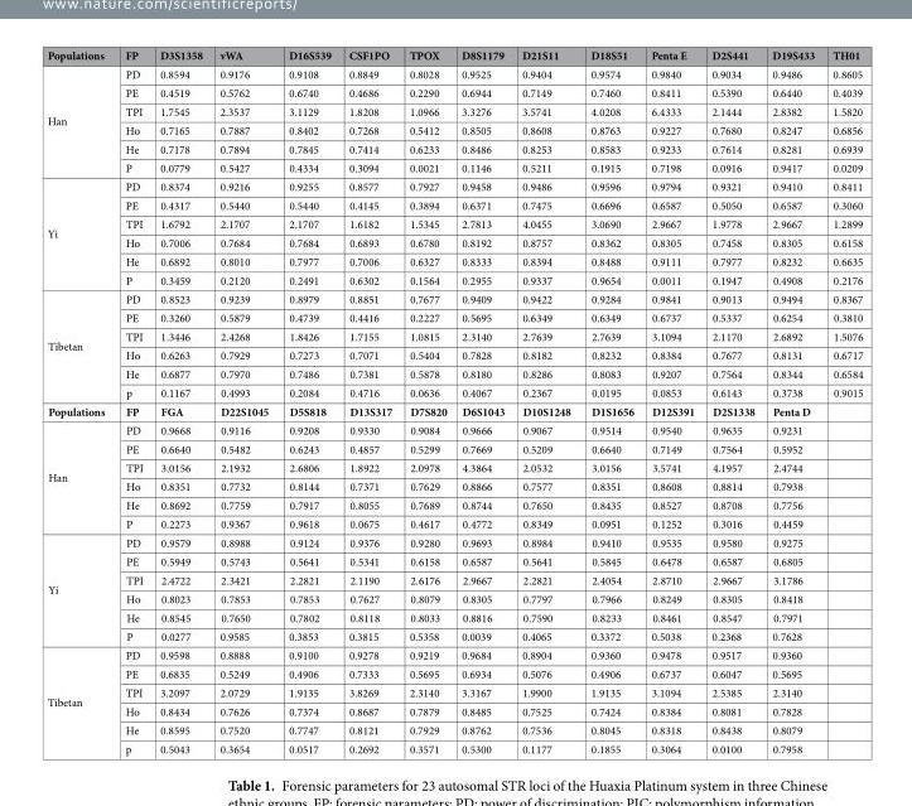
<table><thead><tr><td>Populations</td><td>FP</td><td>D3S1358</td><td>vWA</td><td>D16S539</td><td>CSF1PO</td><td>TPOX</td><td>D8S1179</td><td>D21S11</td><td>D18S51</td><td>Penta E</td><td>D2S441</td><td>D19S433</td><td>TH01</td></tr></thead><tbody><tr><td rowspan="6">Han</td><td>PD</td><td>0.8594</td><td>0.9176</td><td>0.9108</td><td>0.8849</td><td>0.8028</td><td>0.9525</td><td>0.9404</td><td>0.9574</td><td>0.9840</td><td>0.9034</td><td>0.9486</td><td>0.8605</td></tr><tr><td>PE</td><td>0.4519</td><td>0.5762</td><td>0.6740</td><td>0.4686</td><td>0.2290</td><td>0.6944</td><td>0.7149</td><td>0.7460</td><td>0.8411</td><td>0.5390</td><td>0.6440</td><td>0.4039</td></tr><tr><td>TPI</td><td>1.7545</td><td>2.3537</td><td>3.1129</td><td>1.8208</td><td>1.0966</td><td>3.3276</td><td>3.5741</td><td>4.0208</td><td>6.4333</td><td>2.1444</td><td>2.8382</td><td>1.5820</td></tr><tr><td>Ho</td><td>0.7165</td><td>0.7887</td><td>0.8402</td><td>0.7268</td><td>0.5412</td><td>0.8505</td><td>0.8608</td><td>0.8763</td><td>0.9227</td><td>0.7680</td><td>0.8247</td><td>0.6856</td></tr><tr><td>He</td><td>0.7178</td><td>0.7894</td><td>0.7845</td><td>0.7414</td><td>0.6233</td><td>0.8486</td><td>0.8253</td><td>0.8583</td><td>0.9233</td><td>0.7614</td><td>0.8281</td><td>0.6939</td></tr><tr><td>P</td><td>0.0779</td><td>0.5427</td><td>0.4334</td><td>0.3094</td><td>0.0021</td><td>0.1146</td><td>0.5211</td><td>0.1915</td><td>0.7198</td><td>0.0916</td><td>0.9417</td><td>0.0209</td></tr><tr><td rowspan="6">Yi</td><td>PD</td><td>0.8374</td><td>0.9216</td><td>0.9255</td><td>0.8577</td><td>0.7927</td><td>0.9458</td><td>0.9486</td><td>0.9596</td><td>0.9794</td><td>0.9321</td><td>0.9410</td><td>0.8411</td></tr><tr><td>PE</td><td>0.4317</td><td>0.5440</td><td>0.5440</td><td>0.4145</td><td>0.3894</td><td>0.6371</td><td>0.7475</td><td>0.6696</td><td>0.6587</td><td>0.5050</td><td>0.6587</td><td>0.3060</td></tr><tr><td>TPI</td><td>1.6792</td><td>2.1707</td><td>2.1707</td><td>1.6182</td><td>1.5345</td><td>2.7813</td><td>4.0455</td><td>3.0690</td><td>2.9667</td><td>1.9778</td><td>2.9667</td><td>1.2899</td></tr><tr><td>Ho</td><td>0.7006</td><td>0.7684</td><td>0.7684</td><td>0.6893</td><td>0.6780</td><td>0.8192</td><td>0.8757</td><td>0.8362</td><td>0.8305</td><td>0.7458</td><td>0.8305</td><td>0.6158</td></tr><tr><td>He</td><td>0.6892</td><td>0.8010</td><td>0.7977</td><td>0.7006</td><td>0.6327</td><td>0.8333</td><td>0.8394</td><td>0.8488</td><td>0.9111</td><td>0.7977</td><td>0.8232</td><td>0.6635</td></tr><tr><td>P</td><td>0.3459</td><td>0.2120</td><td>0.2491</td><td>0.6302</td><td>0.1564</td><td>0.2955</td><td>0.9337</td><td>0.9654</td><td>0.0011</td><td>0.1947</td><td>0.4908</td><td>0.2176</td></tr><tr><td rowspan="6">Tibetan</td><td>PD</td><td>0.8523</td><td>0.9239</td><td>0.8979</td><td>0.8851</td><td>0.7677</td><td>0.9409</td><td>0.9422</td><td>0.9284</td><td>0.9841</td><td>0.9013</td><td>0.9494</td><td>0.8367</td></tr><tr><td>PE</td><td>0.3260</td><td>0.5879</td><td>0.4739</td><td>0.4416</td><td>0.2227</td><td>0.5695</td><td>0.6349</td><td>0.6349</td><td>0.6737</td><td>0.5337</td><td>0.6254</td><td>0.3810</td></tr><tr><td>TPI</td><td>1.3446</td><td>2.4268</td><td>1.8426</td><td>1.7155</td><td>1.0815</td><td>2.3140</td><td>2.7639</td><td>2.7639</td><td>3.1094</td><td>2.1170</td><td>2.6892</td><td>1.5076</td></tr><tr><td>Ho</td><td>0.6263</td><td>0.7929</td><td>0.7273</td><td>0.7071</td><td>0.5404</td><td>0.7828</td><td>0.8182</td><td>0.8232</td><td>0.8384</td><td>0.7677</td><td>0.8131</td><td>0.6717</td></tr><tr><td>He</td><td>0.6877</td><td>0.7970</td><td>0.7486</td><td>0.7381</td><td>0.5878</td><td>0.8180</td><td>0.8286</td><td>0.8083</td><td>0.9207</td><td>0.7564</td><td>0.8344</td><td>0.6584</td></tr><tr><td>p</td><td>0.1167</td><td>0.4993</td><td>0.2084</td><td>0.4716</td><td>0.0636</td><td>0.4067</td><td>0.2367</td><td>0.0195</td><td>0.0853</td><td>0.6143</td><td>0.3738</td><td>0.9015</td></tr><tr><td>Populations</td><td>FP</td><td>FGA</td><td>D22S1045</td><td>D5S818</td><td>D13S317</td><td>D7S820</td><td>D6S1043</td><td>D10S1248</td><td>D1S1656</td><td>D12S391</td><td>D2S1338</td><td>Penta D</td><td></td></tr><tr><td rowspan="6">Han</td><td>PD</td><td>0.9668</td><td>0.9116</td><td>0.9208</td><td>0.9330</td><td>0.9084</td><td>0.9666</td><td>0.9067</td><td>0.9514</td><td>0.9540</td><td>0.9635</td><td>0.9231</td><td></td></tr><tr><td>PE</td><td>0.6640</td><td>0.5482</td><td>0.6243</td><td>0.4857</td><td>0.5299</td><td>0.7669</td><td>0.5209</td><td>0.6640</td><td>0.7149</td><td>0.7564</td><td>0.5952</td><td></td></tr><tr><td>TPI</td><td>3.0156</td><td>2.1932</td><td>2.6806</td><td>1.8922</td><td>2.0978</td><td>4.3864</td><td>2.0532</td><td>3.0156</td><td>3.5741</td><td>4.1957</td><td>2.4744</td><td></td></tr><tr><td>Ho</td><td>0.8351</td><td>0.7732</td><td>0.8144</td><td>0.7371</td><td>0.7629</td><td>0.8866</td><td>0.7577</td><td>0.8351</td><td>0.8608</td><td>0.8814</td><td>0.7938</td><td></td></tr><tr><td>He</td><td>0.8692</td><td>0.7759</td><td>0.7917</td><td>0.8055</td><td>0.7689</td><td>0.8744</td><td>0.7650</td><td>0.8435</td><td>0.8527</td><td>0.8708</td><td>0.7756</td><td></td></tr><tr><td>P</td><td>0.2273</td><td>0.9367</td><td>0.9618</td><td>0.0675</td><td>0.4617</td><td>0.4772</td><td>0.8349</td><td>0.0951</td><td>0.1252</td><td>0.3016</td><td>0.4459</td><td></td></tr><tr><td rowspan="6">Yi</td><td>PD</td><td>0.9579</td><td>0.8988</td><td>0.9124</td><td>0.9376</td><td>0.9280</td><td>0.9693</td><td>0.8984</td><td>0.9410</td><td>0.9535</td><td>0.9580</td><td>0.9275</td><td></td></tr><tr><td>PE</td><td>0.5949</td><td>0.5743</td><td>0.5641</td><td>0.5341</td><td>0.6158</td><td>0.6587</td><td>0.5641</td><td>0.5845</td><td>0.6478</td><td>0.6587</td><td>0.6805</td><td></td></tr><tr><td>TPI</td><td>2.4722</td><td>2.3421</td><td>2.2821</td><td>2.1190</td><td>2.6176</td><td>2.9667</td><td>2.2821</td><td>2.4054</td><td>2.8710</td><td>2.9667</td><td>3.1786</td><td></td></tr><tr><td>Ho</td><td>0.8023</td><td>0.7853</td><td>0.7853</td><td>0.7627</td><td>0.8079</td><td>0.8305</td><td>0.7797</td><td>0.7966</td><td>0.8249</td><td>0.8305</td><td>0.8418</td><td></td></tr><tr><td>He</td><td>0.8545</td><td>0.7650</td><td>0.7802</td><td>0.8118</td><td>0.8033</td><td>0.8816</td><td>0.7590</td><td>0.8233</td><td>0.8461</td><td>0.8547</td><td>0.7971</td><td></td></tr><tr><td>P</td><td>0.0277</td><td>0.9585</td><td>0.3853</td><td>0.3815</td><td>0.5358</td><td>0.0039</td><td>0.4065</td><td>0.3372</td><td>0.5038</td><td>0.2368</td><td>0.7628</td><td></td></tr><tr><td rowspan="6">Tibetan</td><td>PD</td><td>0.9598</td><td>0.8888</td><td>0.9100</td><td>0.9278</td><td>0.9219</td><td>0.9684</td><td>0.8904</td><td>0.9360</td><td>0.9478</td><td>0.9517</td><td>0.9360</td><td></td></tr><tr><td>PE</td><td>0.6835</td><td>0.5249</td><td>0.4906</td><td>0.7333</td><td>0.5695</td><td>0.6934</td><td>0.5076</td><td>0.4906</td><td>0.6737</td><td>0.6047</td><td>0.5695</td><td></td></tr><tr><td>TPI</td><td>3.2097</td><td>2.0729</td><td>1.9135</td><td>3.8269</td><td>2.3140</td><td>3.3167</td><td>1.9900</td><td>1.9135</td><td>3.1094</td><td>2.5385</td><td>2.3140</td><td></td></tr><tr><td>Ho</td><td>0.8434</td><td>0.7626</td><td>0.7374</td><td>0.8687</td><td>0.7879</td><td>0.8485</td><td>0.7525</td><td>0.7424</td><td>0.8384</td><td>0.8081</td><td>0.7828</td><td></td></tr><tr><td>He</td><td>0.8595</td><td>0.7520</td><td>0.7747</td><td>0.8121</td><td>0.7929</td><td>0.8762</td><td>0.7536</td><td>0.8045</td><td>0.8318</td><td>0.8438</td><td>0.8079</td><td></td></tr><tr><td>p</td><td>0.5043</td><td>0.3654</td><td>0.0517</td><td>0.2692</td><td>0.3571</td><td>0.5300</td><td>0.1177</td><td>0.1855</td><td>0.3064</td><td>0.0100</td><td>0.7958</td><td></td></tr></tbody></table>